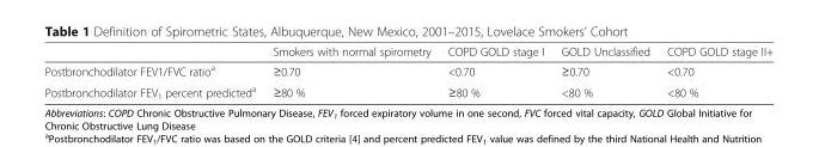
<table><thead><tr><td></td><td>Smokers with normal spirometry</td><td>COPD GOLD stage I</td><td>GOLD Unclassified</td><td>COPD GOLD stage II+</td></tr></thead><tbody><tr><td>Postbronchodilator FEV1/FVC ratio<sup>a</sup></td><td>≥0.70</td><td>&lt;0.70</td><td>≥0.70</td><td>&lt;0.70</td></tr><tr><td>Postbronchodilator FEV<sub>1</sub> percent predicted<sup>a</sup></td><td>≥80 %</td><td>≥80 %</td><td>&lt;80 %</td><td>&lt;80 %</td></tr></tbody></table>